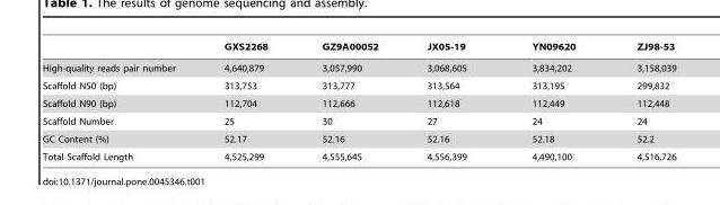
<table><thead><tr><td></td><td>GXS2268</td><td>GZ9A00052</td><td>JX05-19</td><td>YN09620</td><td>ZJ98-53</td></tr></thead><tbody><tr><td>High-quality reads pair number</td><td>4,640,879</td><td>3,057,990</td><td>3,068,605</td><td>3,834,202</td><td>3,158,039</td></tr><tr><td>Scaffold N50 (bp)</td><td>313,753</td><td>313,777</td><td>313,564</td><td>313,195</td><td>299,832</td></tr><tr><td>Scaffold N90 (bp)</td><td>112,704</td><td>112,666</td><td>112,618</td><td>112,449</td><td>112,448</td></tr><tr><td>Scaffold Number</td><td>25</td><td>30</td><td>27</td><td>24</td><td>24</td></tr><tr><td>GC Content (%)</td><td>52.17</td><td>52.16</td><td>52.16</td><td>52.18</td><td>52.2</td></tr><tr><td>Total Scaffold Length</td><td>4,525,299</td><td>4,555,645</td><td>4,556,399</td><td>4,490,100</td><td>4,516,726</td></tr></tbody></table>